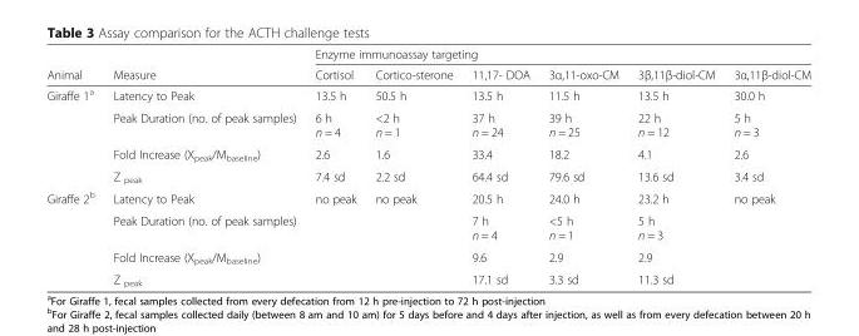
<table><thead><tr><td rowspan="2">Animal</td><td rowspan="2">Measure</td><td colspan="6">Enzyme immunoassay targeting</td></tr><tr><td>Cortisol</td><td>Cortico-sterone</td><td>11,17- DOA</td><td>3α,11-oxo-CM</td><td>3β,11β-diol-CM</td><td>3α,11β-diol-CM</td></tr></thead><tbody><tr><td rowspan="4">Giraffe 1<sup>a</sup></td><td>Latency to Peak</td><td>13.5 h</td><td>50.5 h</td><td>13.5 h</td><td>11.5 h</td><td>13.5 h</td><td>30.0 h</td></tr><tr><td>Peak Duration (no. of peak samples)</td><td>6 h n = 4</td><td>&lt;2 h n = 1</td><td>37 h n = 24</td><td>39 h n = 25</td><td>22 h n = 12</td><td>5 h n = 3</td></tr><tr><td>Fold Increase (X<sub>peak</sub>/M<sub>baseline</sub>)</td><td>2.6</td><td>1.6</td><td>33.4</td><td>18.2</td><td>4.1</td><td>2.6</td></tr><tr><td>Z <sub>peak</sub></td><td>7.4 sd</td><td>2.2 sd</td><td>64.4 sd</td><td>79.6 sd</td><td>13.6 sd</td><td>3.4 sd</td></tr><tr><td rowspan="4">Giraffe 2<sup>b</sup></td><td>Latency to Peak</td><td>no peak</td><td>no peak</td><td>20.5 h</td><td>24.0 h</td><td>23.2 h</td><td rowspan="4">no peak</td></tr><tr><td>Peak Duration (no. of peak samples)</td><td></td><td></td><td>7 h n = 4</td><td>&lt;5 h n = 1</td><td>5 h n = 3</td></tr><tr><td>Fold Increase (X<sub>peak</sub>/M<sub>baseline</sub>)</td><td></td><td></td><td>9.6</td><td>2.9</td><td>2.9</td></tr><tr><td>Z <sub>peak</sub></td><td></td><td></td><td>17.1 sd</td><td>3.3 sd</td><td>11.3 sd</td></tr></tbody></table>